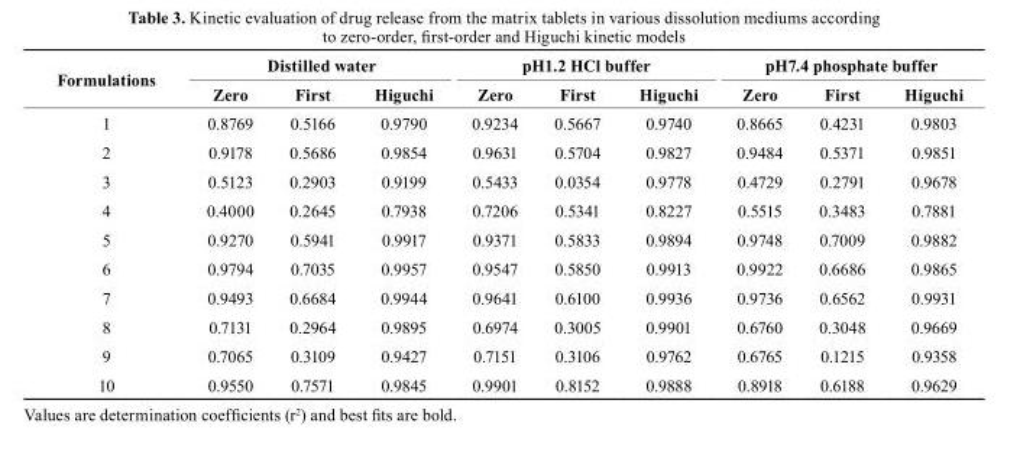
<table><thead><tr><td rowspan="2">Formulations</td><td colspan="3">Distilled water</td><td colspan="3">pH1.2 Hcl buffer</td><td colspan="3">pH7.4 phosphate buffer</td></tr><tr><td>Zero</td><td>First</td><td>Higuchi</td><td>Zero</td><td>First</td><td>Higuchi</td><td>Zero</td><td>First</td><td>Higuchi</td></tr></thead><tbody><tr><td>1</td><td>0.8769</td><td>0.5166</td><td>0.9790</td><td>0.9234</td><td>0.5667</td><td>0.9740</td><td>0.8665</td><td>0.4231</td><td>0.9803</td></tr><tr><td>2</td><td>0.9178</td><td>0.5686</td><td>0.9854</td><td>0.9631</td><td>0.5704</td><td>0.9827</td><td>0.9484</td><td>0.5371</td><td>0.9851</td></tr><tr><td>3</td><td>0.5123</td><td>0.2903</td><td>0.9199</td><td>0.5433</td><td>0.0354</td><td>0.9778</td><td>0.4729</td><td>0.2791</td><td>0.9678</td></tr><tr><td>4</td><td>0.4000</td><td>0.2645</td><td>0.7938</td><td>0.7206</td><td>0.5341</td><td>0.8227</td><td>0.5515</td><td>0.3483</td><td>0.7881</td></tr><tr><td>5</td><td>0.9270</td><td>0.5941</td><td>0.9917</td><td>0.9371</td><td>0.5833</td><td>0.9894</td><td>0.9748</td><td>0.7009</td><td>0.9882</td></tr><tr><td>6</td><td>0.9794</td><td>0.7035</td><td>0.9957</td><td>0.9547</td><td>0.5850</td><td>0.9913</td><td>0.9922</td><td>0.6686</td><td>0.9865</td></tr><tr><td>7</td><td>0.9493</td><td>0.6684</td><td>0.9944</td><td>0.9641</td><td>0.6100</td><td>0.9936</td><td>0.9736</td><td>0.6562</td><td>0.9931</td></tr><tr><td>8</td><td>0.7131</td><td>0.2964</td><td>0.9895</td><td>0.6974</td><td>0.3005</td><td>0.9901</td><td>0.6760</td><td>0.3048</td><td>0.9669</td></tr><tr><td>9</td><td>0.7065</td><td>0.3109</td><td>0.9427</td><td>0.7151</td><td>0.3106</td><td>0.9762</td><td>0.6765</td><td>0.1215</td><td>0.9358</td></tr><tr><td>10</td><td>0.9550</td><td>0.7571</td><td>0.9845</td><td>0.9901</td><td>0.8152</td><td>0.9888</td><td>0.8918</td><td>0.6188</td><td>0.9629</td></tr></tbody></table>